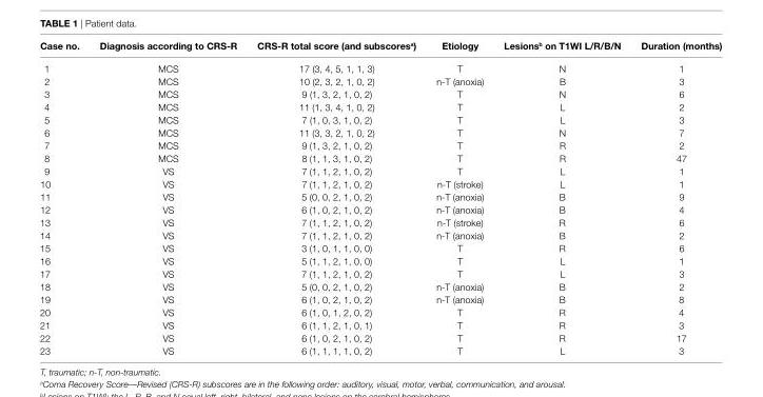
<table><thead><tr><td>case no.</td><td>Diagnosis according to crs-r</td><td>crs-r total score (and subscores<sup>a</sup>)</td><td>etiology</td><td>lesions<sup>b</sup> on T1Wi l/r/b/n</td><td>Duration (months)</td></tr></thead><tbody><tr><td>1</td><td>MCS</td><td>17 (3, 4, 5, 1, 1, 3)</td><td>T</td><td>N</td><td>1</td></tr><tr><td>2</td><td>MCS</td><td>10 (2, 3, 2, 1, 0, 2)</td><td>n-T (anoxia)</td><td>B</td><td>3</td></tr><tr><td>3</td><td>MCS</td><td>9 (1, 3, 2, 1, 0, 2)</td><td>T</td><td>N</td><td>6</td></tr><tr><td>4</td><td>MCS</td><td>11 (1, 3, 4, 1, 0, 2)</td><td>T</td><td>L</td><td>2</td></tr><tr><td>5</td><td>MCS</td><td>7 (1, 0, 3, 1, 0, 2)</td><td>T</td><td>L</td><td>3</td></tr><tr><td>6</td><td>MCS</td><td>11 (3, 3, 2, 1, 0, 2)</td><td>T</td><td>N</td><td>7</td></tr><tr><td>7</td><td>MCS</td><td>9 (1, 3, 2, 1, 0, 2)</td><td>T</td><td>R</td><td>2</td></tr><tr><td>8</td><td>MCS</td><td>8 (1, 1, 3, 1, 0, 2)</td><td>T</td><td>R</td><td>47</td></tr><tr><td>9</td><td>VS</td><td>7 (1, 1, 2, 1, 0, 2)</td><td>T</td><td>L</td><td>1</td></tr><tr><td>10</td><td>VS</td><td>7 (1, 1, 2, 1, 0, 2)</td><td>n-T (stroke)</td><td>L</td><td>1</td></tr><tr><td>11</td><td>VS</td><td>5 (0, 0, 2, 1, 0, 2)</td><td>n-T (anoxia)</td><td>B</td><td>9</td></tr><tr><td>12</td><td>VS</td><td>6 (1, 0, 2, 1, 0, 2)</td><td>n-T (anoxia)</td><td>B</td><td>4</td></tr><tr><td>13</td><td>VS</td><td>7 (1, 1, 2, 1, 0, 2)</td><td>n-T (stroke)</td><td>R</td><td>6</td></tr><tr><td>14</td><td>VS</td><td>7 (1, 1, 2, 1, 0, 2)</td><td>n-T (anoxia)</td><td>B</td><td>2</td></tr><tr><td>15</td><td>VS</td><td>3 (1, 0, 1, 1, 0, 0)</td><td>T</td><td>R</td><td>6</td></tr><tr><td>16</td><td>VS</td><td>5 (1, 1, 2, 1, 0, 0)</td><td>T</td><td>L</td><td>1</td></tr><tr><td>17</td><td>VS</td><td>7 (1, 1, 2, 1, 0, 2)</td><td>T</td><td>L</td><td>3</td></tr><tr><td>18</td><td>VS</td><td>5 (0, 0, 2, 1, 0, 2)</td><td>n-T (anoxia)</td><td>B</td><td>2</td></tr><tr><td>19</td><td>VS</td><td>6 (1, 0, 2, 1, 0, 2)</td><td>n-T (anoxia)</td><td>B</td><td>8</td></tr><tr><td>20</td><td>VS</td><td>6 (1, 0, 1, 2, 0, 2)</td><td>T</td><td>R</td><td>4</td></tr><tr><td>21</td><td>VS</td><td>6 (1, 1, 2, 1, 0, 1)</td><td>T</td><td>R</td><td>3</td></tr><tr><td>22</td><td>VS</td><td>6 (1, 0, 2, 1, 0, 2)</td><td>T</td><td>R</td><td>17</td></tr><tr><td>23</td><td>VS</td><td>6 (1, 1, 1, 1, 0, 2)</td><td>T</td><td>L</td><td>3</td></tr></tbody></table>